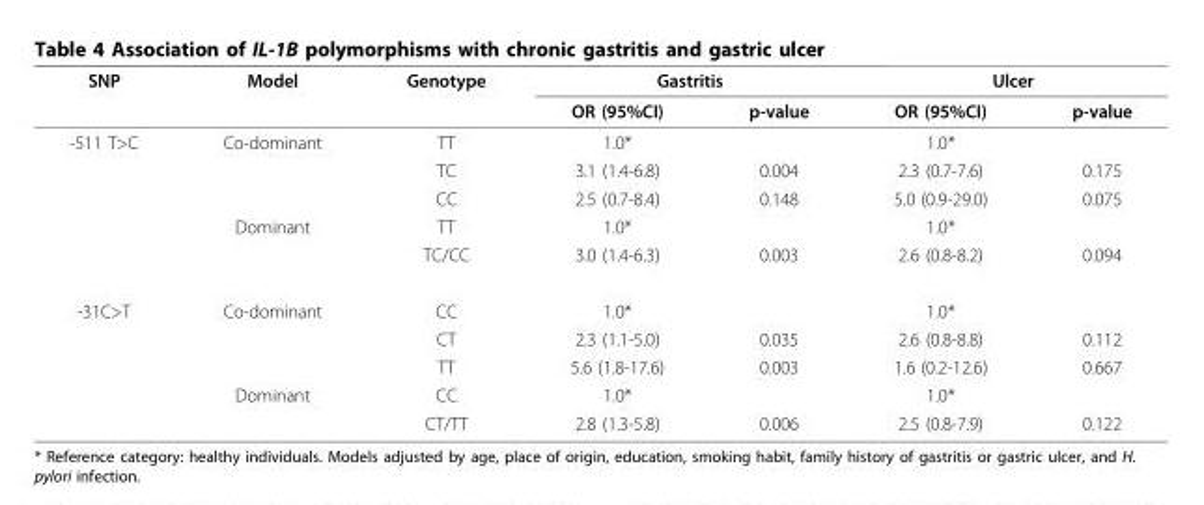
<table><thead><tr><td rowspan="2">SNP</td><td rowspan="2">Model</td><td rowspan="2">Genotype</td><td colspan="2">Gastritis</td><td colspan="2">Ulcer</td></tr><tr><td>OR (95%CI)</td><td>p-value</td><td>OR (95%CI)</td><td>p-value</td></tr></thead><tbody><tr><td rowspan="5">-511 T&gt;C</td><td>Co-dominant</td><td>TT</td><td>1.0*</td><td></td><td>1.0*</td><td></td></tr><tr><td></td><td>TC</td><td>3.1 (1.4-6.8)</td><td>0.004</td><td>2.3 (0.7-7.6)</td><td>0.175</td></tr><tr><td></td><td>CC</td><td>2.5 (0.7-8.4)</td><td>0.148</td><td>5.0 (0.9-29.0)</td><td>0.075</td></tr><tr><td>Dominant</td><td>TT</td><td>1.0*</td><td></td><td>1.0*</td><td></td></tr><tr><td></td><td>TC/CC</td><td>3.0 (1.4-6.3)</td><td>0.003</td><td>2.6 (0.8-8.2)</td><td>0.094</td></tr><tr><td rowspan="5">-31C&gt;T</td><td>Co-dominant</td><td>CC</td><td>1.0*</td><td></td><td>1.0*</td><td></td></tr><tr><td></td><td>CT</td><td>2.3 (1.1-5.0)</td><td>0.035</td><td>2.6 (0.8-8.8)</td><td>0.112</td></tr><tr><td></td><td>TT</td><td>5.6 (1.8-17.6)</td><td>0.003</td><td>1.6 (0.2-12.6)</td><td>0.667</td></tr><tr><td>Dominant</td><td>CC</td><td>1.0*</td><td></td><td>1.0*</td><td></td></tr><tr><td></td><td>CT/TT</td><td>2.8 (1.3-5.8)</td><td>0.006</td><td>2.5 (0.8-7.9)</td><td>0.122</td></tr></tbody></table>